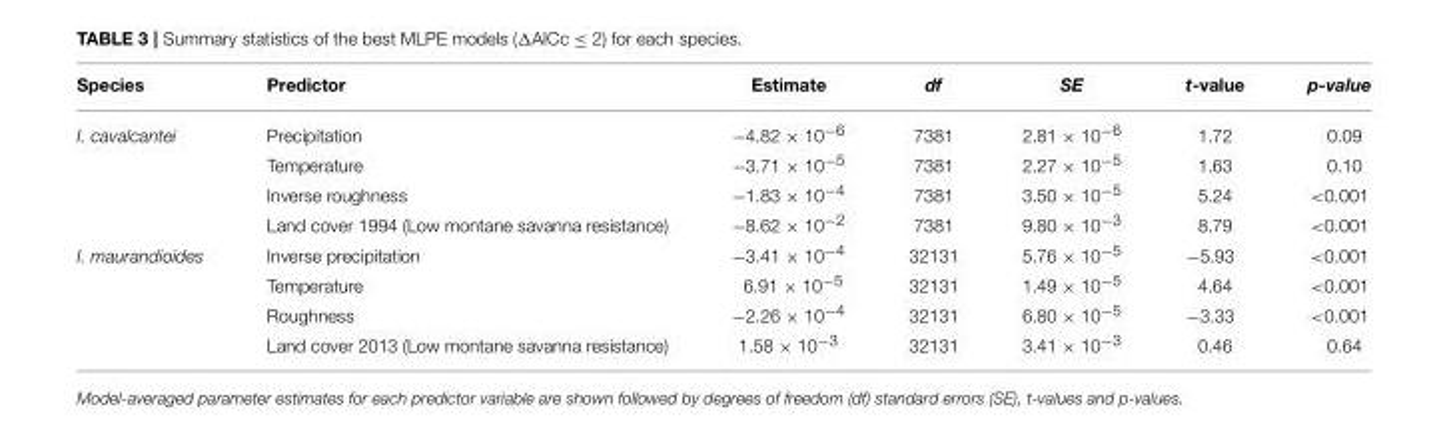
<table><thead><tr><td>Species</td><td>Predictor</td><td>Estimate</td><td>df</td><td>SE</td><td>t-value</td><td>p-value</td></tr></thead><tbody><tr><td rowspan="4">I. cavalcantei</td><td>Precipitation</td><td>−4.82 × 10<sup>−6</sup></td><td>7381</td><td>2.81 × 10<sup>−6</sup></td><td>1.72</td><td>0.09</td></tr><tr><td>Temperature</td><td>−3.71 × 10<sup>−5</sup></td><td>7381</td><td>2.27 × 10<sup>−5</sup></td><td>1.63</td><td>0.10</td></tr><tr><td>Inverse roughness</td><td>−1.83 × 10<sup>−4</sup></td><td>7381</td><td>3.50 × 10<sup>−5</sup></td><td>5.24</td><td>&lt;0.001</td></tr><tr><td>Land cover 1994 (Low montane savanna resistance)</td><td>−8.62 × 10<sup>−2</sup></td><td>7381</td><td>9.80 × 10<sup>−3</sup></td><td>8.79</td><td>&lt;0.001</td></tr><tr><td rowspan="4">I. maurandioides</td><td>Inverse precipitation</td><td>−3.41 × 10<sup>−4</sup></td><td>32131</td><td>5.76 × 10<sup>−5</sup></td><td>−5.93</td><td>&lt;0.001</td></tr><tr><td>Temperature</td><td>6.91 × 10<sup>−5</sup></td><td>32131</td><td>1.49 × 10<sup>−5</sup></td><td>4.64</td><td>&lt;0.001</td></tr><tr><td>Roughness</td><td>−2.26 × 10<sup>−4</sup></td><td>32131</td><td>6.80 × 10<sup>−5</sup></td><td>−3.33</td><td>&lt;0.001</td></tr><tr><td>Land cover 2013 (Low montane savanna resistance)</td><td>1.58 × 10<sup>−3</sup></td><td>32131</td><td>3.41 × 10<sup>−3</sup></td><td>0.46</td><td>0.64</td></tr></tbody></table>